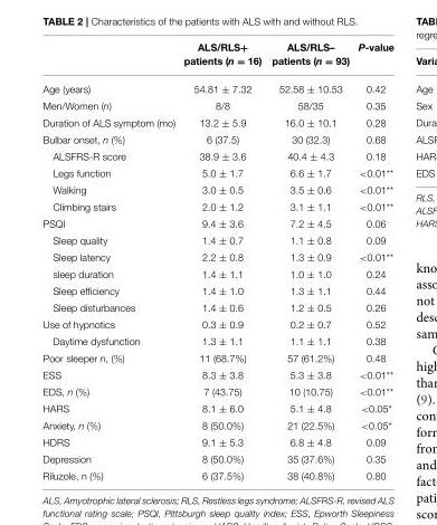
<table><thead><tr><td></td><td>ALS/RLS+ patients (n = 16)</td><td>ALS/RLS– patients (n = 93)</td><td>P-value</td></tr></thead><tbody><tr><td>Age (years)</td><td>54.81 ± 7.32</td><td>52.58 ± 10.53</td><td>0.42</td></tr><tr><td>Men/Women (n)</td><td>8/8</td><td>58/35</td><td>0.35</td></tr><tr><td>Duration of ALS symptom (mo)</td><td>13.2 ± 5.9</td><td>16.0 ± 10.1</td><td>0.28</td></tr><tr><td>Bulbar onset, n (%)</td><td>6 (37.5)</td><td>30 (32.3)</td><td>0.68</td></tr><tr><td>ALSFRS-R score</td><td>38.9 ± 3.6</td><td>40.4 ± 4.3</td><td>0.18</td></tr><tr><td>Legs function</td><td>5.0 ± 1.7</td><td>6.6 ± 1.7</td><td>&lt;0.01**</td></tr><tr><td>Walking</td><td>3.0 ± 0.5</td><td>3.5 ± 0.6</td><td>&lt;0.01**</td></tr><tr><td>Climbing stairs</td><td>2.0 ± 1.2</td><td>3.1 ± 1.1</td><td>&lt;0.01**</td></tr><tr><td>PSQI</td><td>9.4 ± 3.6</td><td>7.2 ± 4.5</td><td>0.06</td></tr><tr><td>Sleep quality</td><td>1.4 ± 0.7</td><td>1.1 ± 0.8</td><td>0.09</td></tr><tr><td>Sleep latency</td><td>2.2 ± 0.8</td><td>1.3 ± 0.9</td><td>&lt;0.01**</td></tr><tr><td>sleep duration</td><td>1.4 ± 1.1</td><td>1.0 ± 1.0</td><td>0.24</td></tr><tr><td>Sleep efficiency</td><td>1.4 ± 1.0</td><td>1.3 ± 1.1</td><td>0.44</td></tr><tr><td>Sleep disturbances</td><td>1.4 ± 0.6</td><td>1.2 ± 0.5</td><td>0.26</td></tr><tr><td>Use of hypnotics</td><td>0.3 ± 0.9</td><td>0.2 ± 0.7</td><td>0.52</td></tr><tr><td>Daytime dysfunction</td><td>1.3 ± 1.1</td><td>1.1 ± 1.1</td><td>0.38</td></tr><tr><td>Poor sleeper n, (%)</td><td>11 (68.7%)</td><td>57 (61.2%)</td><td>0.48</td></tr><tr><td>ESS</td><td>8.3 ± 3.8</td><td>5.3 ± 3.8</td><td>&lt;0.01**</td></tr><tr><td>EDS, n (%)</td><td>7 (43.75)</td><td>10 (10.75)</td><td>&lt;0.01**</td></tr><tr><td>HARS</td><td>8.1 ± 6.0</td><td>5.1 ± 4.8</td><td>&lt;0.05*</td></tr><tr><td>Anxiety, n (%)</td><td>8 (50.0%)</td><td>21 (22.5%)</td><td>&lt;0.05*</td></tr><tr><td>HDRS</td><td>9.1 ± 5.3</td><td>6.8 ± 4.8</td><td>0.09</td></tr><tr><td>Depression</td><td>8 (50.0%)</td><td>35 (37.6%)</td><td>0.35</td></tr><tr><td>Riluzole, n (%)</td><td>6 (37.5%)</td><td>38 (40.8%)</td><td>0.80</td></tr></tbody></table>